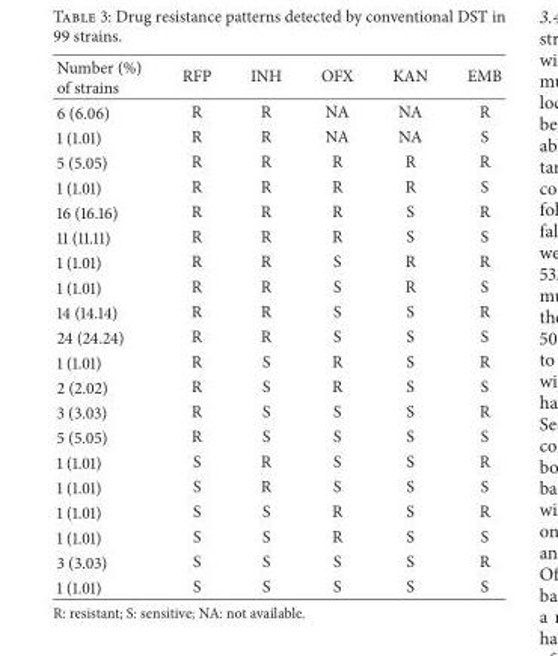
<table><thead><tr><td>Number (%) of strains</td><td>RFP</td><td>INH</td><td>OFX</td><td>KAN</td><td>EMB</td></tr></thead><tbody><tr><td>6 (6.06)</td><td>R</td><td>R</td><td>NA</td><td>NA</td><td>R</td></tr><tr><td>1 (1.01)</td><td>R</td><td>R</td><td>NA</td><td>NA</td><td>S</td></tr><tr><td>5 (5.05)</td><td>R</td><td>R</td><td>R</td><td>R</td><td>R</td></tr><tr><td>1 (1.01)</td><td>R</td><td>R</td><td>R</td><td>R</td><td>S</td></tr><tr><td>16 (16.16)</td><td>R</td><td>R</td><td>R</td><td>S</td><td>R</td></tr><tr><td>11 (11.11)</td><td>R</td><td>R</td><td>R</td><td>S</td><td>S</td></tr><tr><td>1 (1.01)</td><td>R</td><td>R</td><td>S</td><td>R</td><td>R</td></tr><tr><td>1 (1.01)</td><td>R</td><td>R</td><td>S</td><td>R</td><td>S</td></tr><tr><td>14 (14.14)</td><td>R</td><td>R</td><td>S</td><td>S</td><td>R</td></tr><tr><td>24 (24.24)</td><td>R</td><td>R</td><td>S</td><td>S</td><td>S</td></tr><tr><td>1 (1.01)</td><td>R</td><td>S</td><td>R</td><td>S</td><td>R</td></tr><tr><td>2 (2.02)</td><td>R</td><td>S</td><td>R</td><td>S</td><td>S</td></tr><tr><td>3 (3.03)</td><td>R</td><td>S</td><td>S</td><td>S</td><td>R</td></tr><tr><td>5 (5.05)</td><td>R</td><td>S</td><td>S</td><td>S</td><td>S</td></tr><tr><td>1 (1.01)</td><td>S</td><td>R</td><td>S</td><td>S</td><td>R</td></tr><tr><td>1 (1.01)</td><td>S</td><td>R</td><td>S</td><td>S</td><td>S</td></tr><tr><td>1 (1.01)</td><td>S</td><td>S</td><td>R</td><td>S</td><td>R</td></tr><tr><td>1 (1.01)</td><td>S</td><td>S</td><td>R</td><td>S</td><td>S</td></tr><tr><td>3 (3.03)</td><td>S</td><td>S</td><td>S</td><td>S</td><td>R</td></tr><tr><td>1 (1.01)</td><td>S</td><td>S</td><td>S</td><td>S</td><td>S</td></tr></tbody></table>